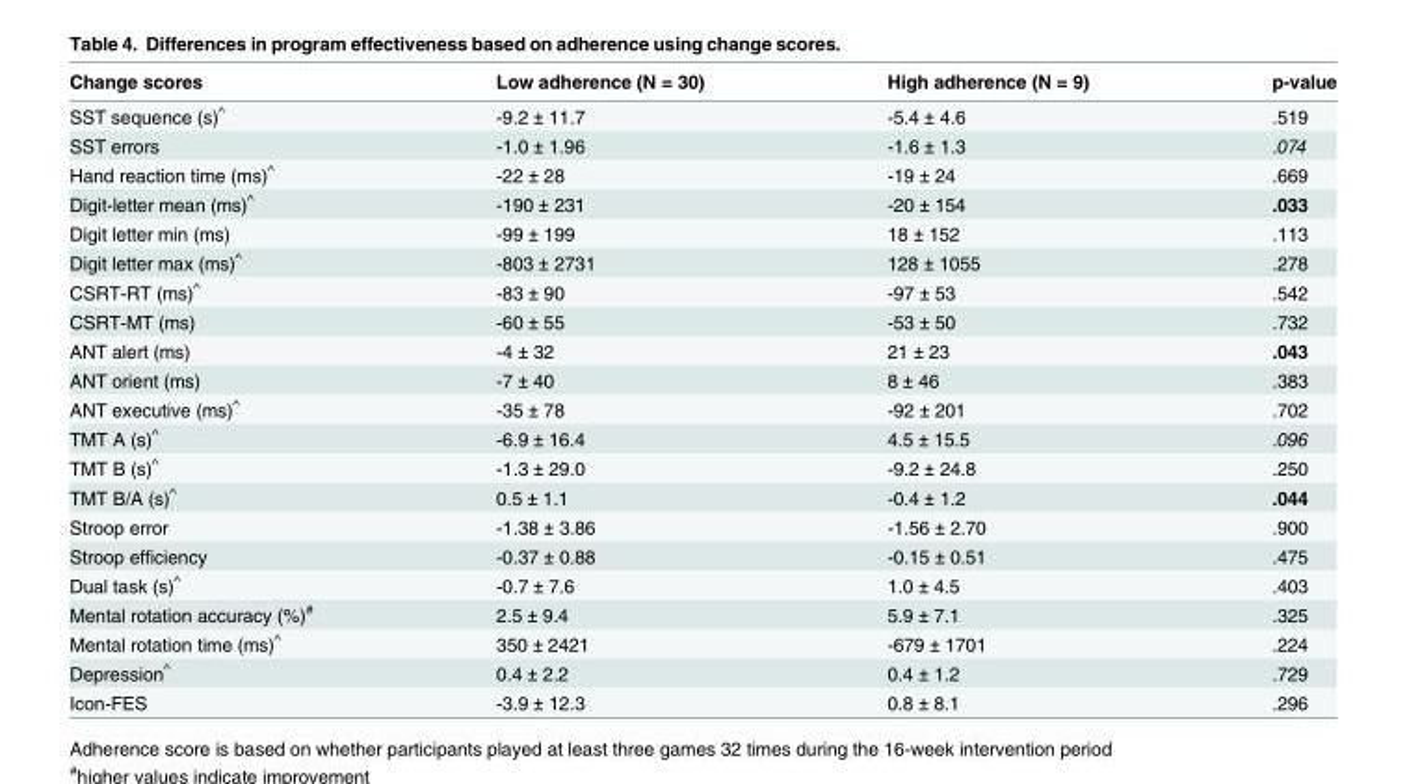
<table><thead><tr><td>Change scores</td><td>Low adherence (N = 30)</td><td>High adherence (N = 9)</td><td>p-value</td></tr></thead><tbody><tr><td>SST sequence (s)<sup>^</sup></td><td>-9.2 ± 11.7</td><td>-5.4 ± 4.6</td><td>.519</td></tr><tr><td>SST errors</td><td>-1.0 ± 1.96</td><td>-1.6 ± 1.3</td><td>.074</td></tr><tr><td>Hand reaction time (ms)<sup>^</sup></td><td>-22 ± 28</td><td>-19 ± 24</td><td>.669</td></tr><tr><td>Digit-letter mean (ms)<sup>^</sup></td><td>-190 ± 231</td><td>-20 ± 154</td><td>.033</td></tr><tr><td>Digit letter min (ms)</td><td>-99 ± 199</td><td>18 ± 152</td><td>.113</td></tr><tr><td>Digit letter max (ms)<sup>^</sup></td><td>-803 ± 2731</td><td>128 ± 1055</td><td>.278</td></tr><tr><td>CSRT-RT (ms)<sup>^</sup></td><td>-83 ± 90</td><td>-97 ± 53</td><td>.542</td></tr><tr><td>CSRT-MT (ms)</td><td>-60 ± 55</td><td>-53 ± 50</td><td>.732</td></tr><tr><td>ANT alert (ms)</td><td>-4 ± 32</td><td>21 ± 23</td><td>.043</td></tr><tr><td>ANT orient (ms)</td><td>-7 ± 40</td><td>8 ± 46</td><td>.383</td></tr><tr><td>ANT executive (ms)<sup>^</sup></td><td>-35 ± 78</td><td>-92 ± 201</td><td>.702</td></tr><tr><td>TMT A (s)<sup>^</sup></td><td>-6.9 ± 16.4</td><td>4.5 ± 15.5</td><td>.096</td></tr><tr><td>TMT B (s)<sup>^</sup></td><td>-1.3 ± 29.0</td><td>-9.2 ± 24.8</td><td>.250</td></tr><tr><td>TMT B/A (s)<sup>^</sup></td><td>0.5 ± 1.1</td><td>-0.4 ± 1.2</td><td>.044</td></tr><tr><td>Stroop error</td><td>-1.38 ± 3.86</td><td>-1.56 ± 2.70</td><td>.900</td></tr><tr><td>Stroop efficiency</td><td>-0.37 ± 0.88</td><td>-0.15 ± 0.51</td><td>.475</td></tr><tr><td>Dual task (s)<sup>^</sup></td><td>-0.7 ± 7.6</td><td>1.0 ± 4.5</td><td>.403</td></tr><tr><td>Mental rotation accuracy (%)<sup>#</sup></td><td>2.5 ± 9.4</td><td>5.9 ± 7.1</td><td>.325</td></tr><tr><td>Mental rotation time (ms)<sup>^</sup></td><td>350 ± 2421</td><td>-679 ± 1701</td><td>.224</td></tr><tr><td>Depression<sup>^</sup></td><td>0.4 ± 2.2</td><td>0.4 ± 1.2</td><td>.729</td></tr><tr><td>Icon-FES</td><td>-3.9 ± 12.3</td><td>0.8 ± 8.1</td><td>.296</td></tr></tbody></table>